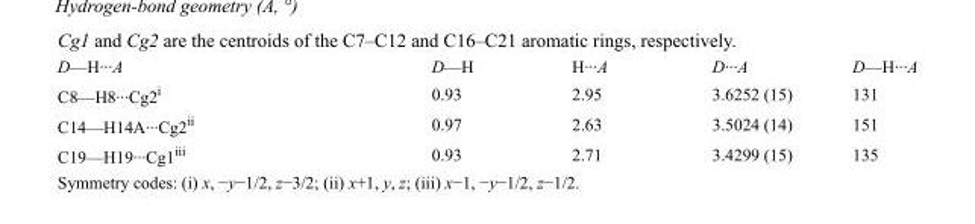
<table><tbody><tr><td>D—H···A</td><td>D—H</td><td>H···A</td><td>D···A</td><td>D—H···A</td></tr><tr><td>C8—H8···Cg2<sup>i</sup></td><td>0.93</td><td>2.95</td><td>3.6252 (15)</td><td>131</td></tr><tr><td>C14—H14A···Cg2<sup>ii</sup></td><td>0.97</td><td>2.63</td><td>3.5024 (14)</td><td>151</td></tr><tr><td>C19—H19···Cg1<sup>iii</sup></td><td>0.93</td><td>2.71</td><td>3.4299 (15)</td><td>135</td></tr></tbody></table>